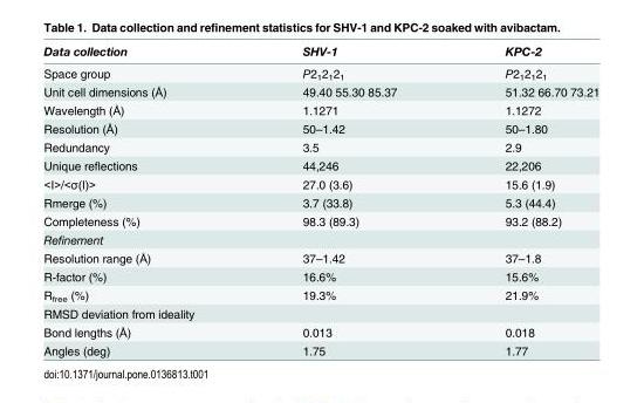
<table><thead><tr><td>Data collection</td><td>SHV-1</td><td>KPC-2</td></tr></thead><tbody><tr><td>Space group</td><td>P2<sub>1</sub>2<sub>1</sub>2<sub>1</sub></td><td>P2<sub>1</sub>2<sub>1</sub>2<sub>1</sub></td></tr><tr><td>Unit cell dimensions (Å)</td><td>49.40 55.30 85.37</td><td>51.32 66.70 73.21</td></tr><tr><td>Wavelength (Å)</td><td>1.1271</td><td>1.1272</td></tr><tr><td>Resolution (Å)</td><td>50–1.42</td><td>50–1.80</td></tr><tr><td>Redundancy</td><td>3.5</td><td>2.9</td></tr><tr><td>Unique reflections</td><td>44,246</td><td>22,206</td></tr><tr><td>&lt;I&gt;/&lt;σ(I)&gt;</td><td>27.0 (3.6)</td><td>15.6 (1.9)</td></tr><tr><td>Rmerge (%)</td><td>3.7 (33.8)</td><td>5.3 (44.4)</td></tr><tr><td>Completeness (%)</td><td>98.3 (89.3)</td><td>93.2 (88.2)</td></tr><tr><td colspan="3">Refinement</td></tr><tr><td>Resolution range (Å)</td><td>37–1.42</td><td>37–1.8</td></tr><tr><td>R-factor (%)</td><td>16.6%</td><td>15.6%</td></tr><tr><td>R<sub>free</sub> (%)</td><td>19.3%</td><td>21.9%</td></tr><tr><td colspan="3">RMSD deviation from ideality</td></tr><tr><td>Bond lengths (Å)</td><td>0.013</td><td>0.018</td></tr><tr><td>Angles (deg)</td><td>1.75</td><td>1.77</td></tr></tbody></table>